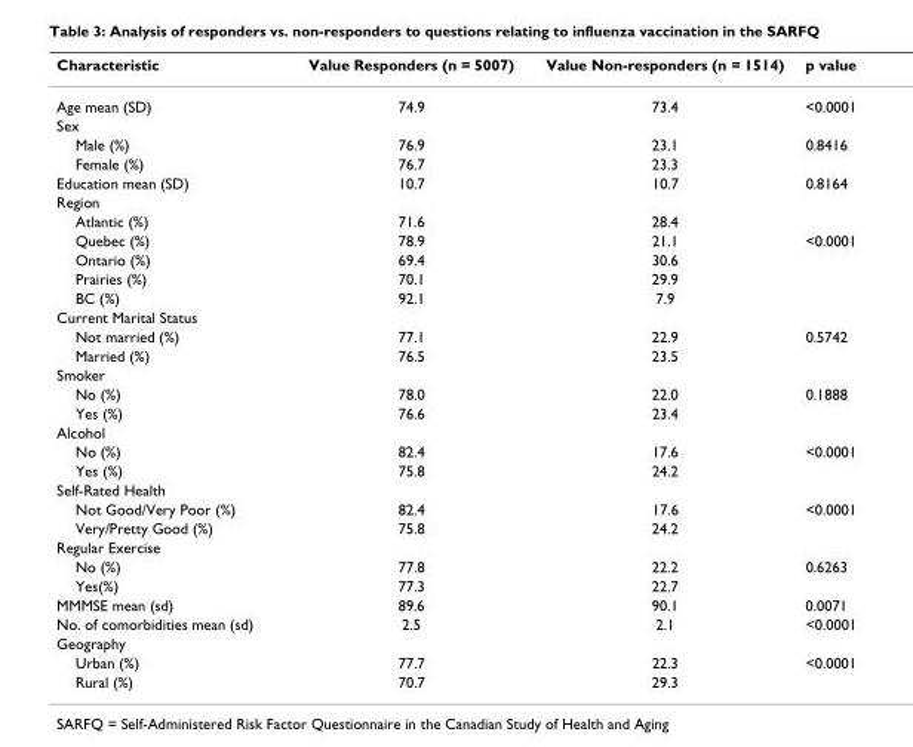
<table><thead><tr><td>Characteristic</td><td>Value Responders (n = 5007)</td><td>Value Non-responders (n = 1514)</td><td>p value</td></tr></thead><tbody><tr><td>Age mean (SD)</td><td>74.9</td><td>73.4</td><td>&lt;0.0001</td></tr><tr><td colspan="4">Sex</td></tr><tr><td>Male (%)</td><td>76.9</td><td>23.1</td><td>0.8416</td></tr><tr><td>Female (%)</td><td>76.7</td><td>23.3</td><td></td></tr><tr><td>Education mean (SD)</td><td>10.7</td><td>10.7</td><td>0.8164</td></tr><tr><td colspan="4">Region</td></tr><tr><td>Atlantic (%)</td><td>71.6</td><td>28.4</td><td></td></tr><tr><td>Quebec (%)</td><td>78.9</td><td>21.1</td><td>&lt;0.0001</td></tr><tr><td>Ontario (%)</td><td>69.4</td><td>30.6</td><td></td></tr><tr><td>Prairies (%)</td><td>70.1</td><td>29.9</td><td></td></tr><tr><td>BC (%)</td><td>92.1</td><td>7.9</td><td></td></tr><tr><td colspan="4">Current Marital Status</td></tr><tr><td>Not married (%)</td><td>77.1</td><td>22.9</td><td>0.5742</td></tr><tr><td>Married (%)</td><td>76.5</td><td>23.5</td><td></td></tr><tr><td colspan="4">Smoker</td></tr><tr><td>No (%)</td><td>78.0</td><td>22.0</td><td>0.1888</td></tr><tr><td>Yes (%)</td><td>76.6</td><td>23.4</td><td></td></tr><tr><td colspan="4">Alcohol</td></tr><tr><td>No (%)</td><td>82.4</td><td>17.6</td><td>&lt;0.0001</td></tr><tr><td>Yes (%)</td><td>75.8</td><td>24.2</td><td></td></tr><tr><td colspan="4">Self-Rated Health</td></tr><tr><td>Not Good/Very Poor (%)</td><td>82.4</td><td>17.6</td><td>&lt;0.0001</td></tr><tr><td>Very/Pretty Good (%)</td><td>75.8</td><td>24.2</td><td></td></tr><tr><td colspan="4">Regular Exercise</td></tr><tr><td>No (%)</td><td>77.8</td><td>22.2</td><td>0.6263</td></tr><tr><td>Yes(%)</td><td>77.3</td><td>22.7</td><td></td></tr><tr><td>MMMSE mean (sd)</td><td>89.6</td><td>90.1</td><td>0.0071</td></tr><tr><td>No. of comorbidities mean (sd)</td><td>2.5</td><td>2.1</td><td>&lt;0.0001</td></tr><tr><td colspan="4">Geography</td></tr><tr><td>Urban (%)</td><td>77.7</td><td>22.3</td><td>&lt;0.0001</td></tr><tr><td>Rural (%)</td><td>70.7</td><td>29.3</td><td></td></tr></tbody></table>